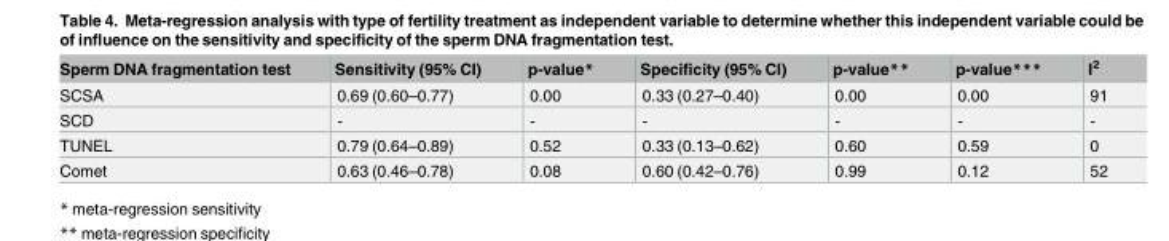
<table><thead><tr><td>Sperm DNA fragmentation test</td><td>Sensitivity (95% CI)</td><td>p-value*</td><td>Specificity (95% CI)</td><td>p-value**</td><td>p-value***</td><td>I<sup>2</sup></td></tr></thead><tbody><tr><td>SCSA</td><td>0.69 (0.60–0.77)</td><td>0.00</td><td>0.33 (0.27–0.40)</td><td>0.00</td><td>0.00</td><td>91</td></tr><tr><td>SCD</td><td>-</td><td>-</td><td>-</td><td>-</td><td>-</td><td>-</td></tr><tr><td>TUNEL</td><td>0.79 (0.64–0.89)</td><td>0.52</td><td>0.33 (0.13–0.62)</td><td>0.60</td><td>0.59</td><td>0</td></tr><tr><td>Comet</td><td>0.63 (0.46–0.78)</td><td>0.08</td><td>0.60 (0.42–0.76)</td><td>0.99</td><td>0.12</td><td>52</td></tr></tbody></table>